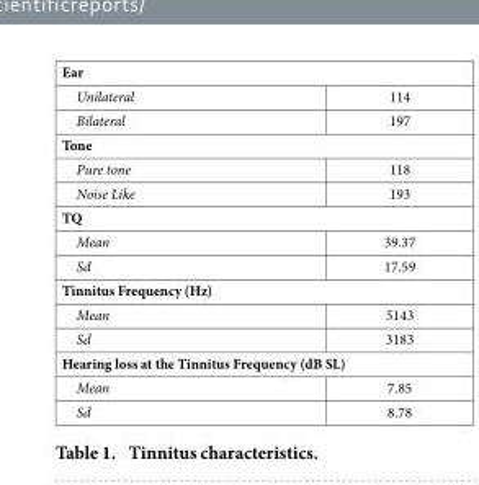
<table><tbody><tr><td colspan="2">Ear</td></tr><tr><td>Unilateral</td><td>114</td></tr><tr><td>Bilateral</td><td>197</td></tr><tr><td colspan="2">Tone</td></tr><tr><td>Pure tone</td><td>118</td></tr><tr><td>Noise Like</td><td>193</td></tr><tr><td colspan="2">TQ</td></tr><tr><td>Mean</td><td>39.37</td></tr><tr><td>Sd</td><td>17.59</td></tr><tr><td colspan="2">Tinnitus Frequency (Hz)</td></tr><tr><td>Mean</td><td>5143</td></tr><tr><td>Sd</td><td>3183</td></tr><tr><td colspan="2">Hearing loss at the Tinnitus Frequency (dB SL)</td></tr><tr><td>Mean</td><td>7.85</td></tr><tr><td>Sd</td><td>8.78</td></tr></tbody></table>